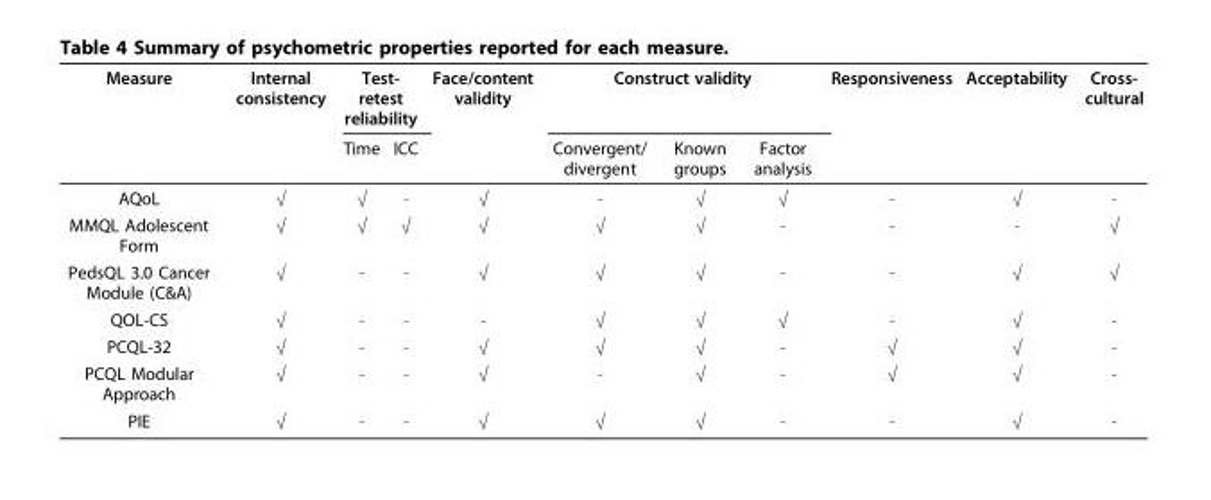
<table><thead><tr><td rowspan="2">Measure</td><td rowspan="2">Internal consistency</td><td colspan="2">Test- retest reliability</td><td rowspan="2">Face/content validity</td><td colspan="3">Construct validity</td><td rowspan="2">Responsiveness</td><td rowspan="2">Acceptability</td><td rowspan="2">Cross- cultural</td></tr><tr><td>Time</td><td>ICC</td><td>Convergent/ divergent</td><td>Known groups</td><td>Factor analysis</td></tr></thead><tbody><tr><td>AQoL</td><td>√</td><td>√</td><td>-</td><td>√</td><td>-</td><td>√</td><td>√</td><td>-</td><td>√</td><td>-</td></tr><tr><td>MMQL Adolescent Form</td><td>√</td><td>√</td><td>√</td><td>√</td><td>√</td><td>√</td><td>-</td><td>-</td><td>-</td><td>√</td></tr><tr><td>PedsQL 3.0 Cancer Module (C&amp;A)</td><td>√</td><td>-</td><td>-</td><td>√</td><td>√</td><td>√</td><td>-</td><td>-</td><td>√</td><td>√</td></tr><tr><td>QOL-CS</td><td>√</td><td>-</td><td>-</td><td>-</td><td>√</td><td>√</td><td>√</td><td>-</td><td>√</td><td>-</td></tr><tr><td>PCQL-32</td><td>√</td><td>-</td><td>-</td><td>√</td><td>√</td><td>√</td><td>-</td><td>√</td><td>√</td><td>-</td></tr><tr><td>PCQL Modular Approach</td><td>√</td><td>-</td><td>-</td><td>√</td><td>-</td><td>√</td><td>-</td><td>√</td><td>√</td><td>-</td></tr><tr><td>PIE</td><td>√</td><td>-</td><td>-</td><td>√</td><td>√</td><td>√</td><td>-</td><td>-</td><td>√</td><td>-</td></tr></tbody></table>